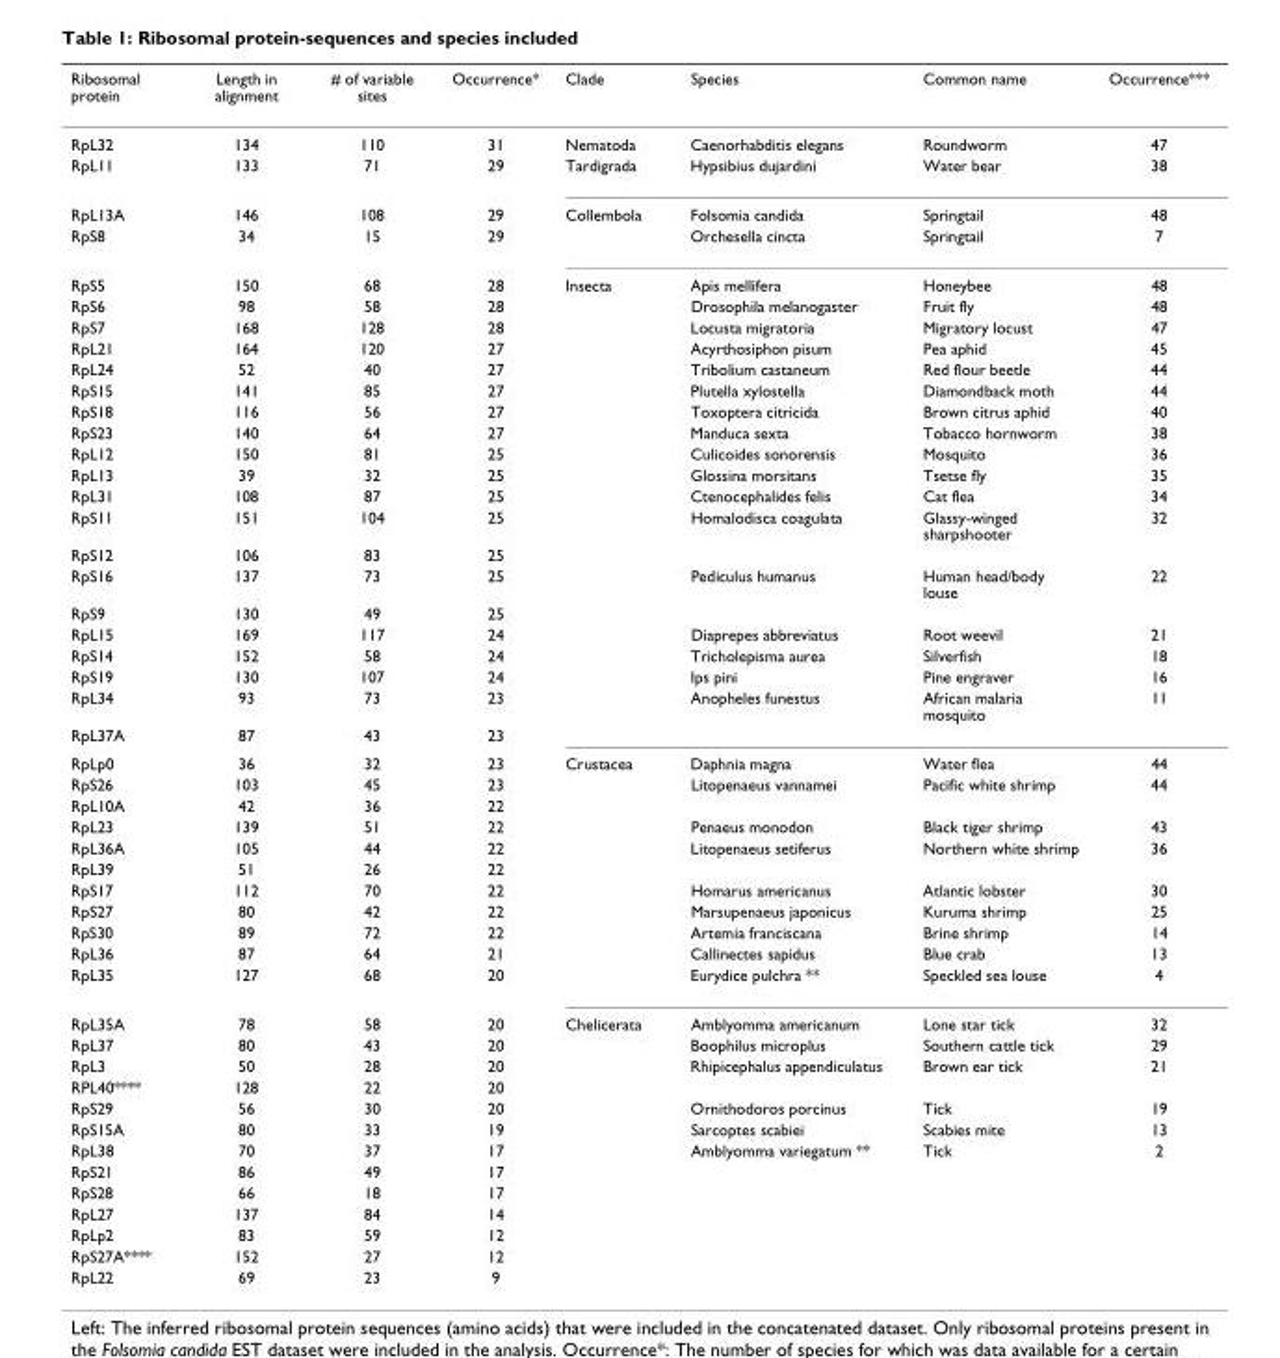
<table><thead><tr><td>Ribosomal protein</td><td>Length in alignment</td><td># of variable sites</td><td>Occurrence*</td><td>Clade</td><td>Species</td><td>Common name</td><td>Occurrence***</td></tr></thead><tbody><tr><td>RpL32</td><td>134</td><td>110</td><td>31</td><td>Nematoda</td><td>Caenorhabditis elegans</td><td>Roundworm</td><td>47</td></tr><tr><td>RpL11</td><td>133</td><td>71</td><td>29</td><td>Tardigrada</td><td>Hypsibius dujardini</td><td>Water bear</td><td>38</td></tr><tr><td>RpL13A</td><td>146</td><td>108</td><td>29</td><td>Collembola</td><td>Folsomia candida</td><td>Springtail</td><td>48</td></tr><tr><td>RpS8</td><td>34</td><td>15</td><td>29</td><td></td><td>Orchesella cincta</td><td>Springtail</td><td>7</td></tr><tr><td>RpS5</td><td>150</td><td>68</td><td>28</td><td>Insecta</td><td>Apis mellifera</td><td>Honeybee</td><td>48</td></tr><tr><td>RpS6</td><td>98</td><td>58</td><td>28</td><td></td><td>Drosophila melanogaster</td><td>Fruit fly</td><td>48</td></tr><tr><td>RpS7</td><td>168</td><td>128</td><td>28</td><td></td><td>Locusta migratoria</td><td>Migratory locust</td><td>47</td></tr><tr><td>RpL21</td><td>164</td><td>120</td><td>27</td><td></td><td>Acyrthosiphon pisum</td><td>Pea aphid</td><td>45</td></tr><tr><td>RpL24</td><td>52</td><td>40</td><td>27</td><td></td><td>Tribolium castaneum</td><td>Red flour beetle</td><td>44</td></tr><tr><td>RpS15</td><td>141</td><td>85</td><td>27</td><td></td><td>Plutella xylostella</td><td>Diamondback moth</td><td>44</td></tr><tr><td>RpS18</td><td>116</td><td>56</td><td>27</td><td></td><td>Toxoptera citricida</td><td>Brown citrus aphid</td><td>40</td></tr><tr><td>RpS23</td><td>140</td><td>64</td><td>27</td><td></td><td>Manduca sexta</td><td>Tobacco hornworm</td><td>38</td></tr><tr><td>RpL12</td><td>150</td><td>81</td><td>25</td><td></td><td>Culicoides sonorensis</td><td>Mosquito</td><td>36</td></tr><tr><td>RpL13</td><td>39</td><td>32</td><td>25</td><td></td><td>Glossina morsitans</td><td>Tsetse fly</td><td>35</td></tr><tr><td>RpL31</td><td>108</td><td>87</td><td>25</td><td></td><td>Ctenocephalides felis</td><td>Cat flea</td><td>34</td></tr><tr><td>RpS11</td><td>151</td><td>104</td><td>25</td><td></td><td>Homalodisca coagulata</td><td>Glassy-winged sharpshooter</td><td>32</td></tr><tr><td>RpS12</td><td>106</td><td>83</td><td>25</td><td></td><td></td><td></td><td></td></tr><tr><td>RpS16</td><td>137</td><td>73</td><td>25</td><td></td><td>Pediculus humanus</td><td>Human head/body louse</td><td>22</td></tr><tr><td>RpS9</td><td>130</td><td>49</td><td>25</td><td></td><td></td><td></td><td></td></tr><tr><td>RpL15</td><td>169</td><td>117</td><td>24</td><td></td><td>Diaprepes abbreviatus</td><td>Root weevil</td><td>21</td></tr><tr><td>RpS14</td><td>152</td><td>58</td><td>24</td><td></td><td>Tricholepisma aurea</td><td>Silverfish</td><td>18</td></tr><tr><td>RpS19</td><td>130</td><td>107</td><td>24</td><td></td><td>Ips pini</td><td>Pine engraver</td><td>16</td></tr><tr><td>RpL34</td><td>93</td><td>73</td><td>23</td><td></td><td>Anopheles funestus</td><td>African malaria mosquito</td><td>11</td></tr><tr><td>RpL37A</td><td>87</td><td>43</td><td>23</td><td colspan="4"></td></tr><tr><td>RpLp0</td><td>36</td><td>32</td><td>23</td><td>Crustacea</td><td>Daphnia magna</td><td>Water flea</td><td>44</td></tr><tr><td>RpS26</td><td>103</td><td>45</td><td>23</td><td></td><td>Litopenaeus vannamei</td><td>Pacific white shrimp</td><td>44</td></tr><tr><td>RpL10A</td><td>42</td><td>36</td><td>22</td><td></td><td></td><td></td><td></td></tr><tr><td>RpL23</td><td>139</td><td>51</td><td>22</td><td></td><td>Penaeus monodon</td><td>Black tiger shrimp</td><td>43</td></tr><tr><td>RpL36A</td><td>105</td><td>44</td><td>22</td><td></td><td>Litopenaeus setiferus</td><td>Northern white shrimp</td><td>36</td></tr><tr><td>RpL39</td><td>51</td><td>26</td><td>22</td><td></td><td></td><td></td><td></td></tr><tr><td>RpS17</td><td>112</td><td>70</td><td>22</td><td></td><td>Homarus americanus</td><td>Atlantic lobster</td><td>30</td></tr><tr><td>RpS27</td><td>80</td><td>42</td><td>22</td><td></td><td>Marsupenaeus japonicus</td><td>Kuruma shrimp</td><td>25</td></tr><tr><td>RpS30</td><td>89</td><td>72</td><td>22</td><td></td><td>Artemia franciscana</td><td>Brine shrimp</td><td>14</td></tr><tr><td>RpL36</td><td>87</td><td>64</td><td>21</td><td></td><td>Callinectes sapidus</td><td>Blue crab</td><td>13</td></tr><tr><td>RpL35</td><td>127</td><td>68</td><td>20</td><td></td><td>Eurydice pulchra **</td><td>Speckled sea louse</td><td>4</td></tr><tr><td>RpL35A</td><td>78</td><td>58</td><td>20</td><td>Chelicerata</td><td>Amblyomma americanum</td><td>Lone star tick</td><td>32</td></tr><tr><td>RpL37</td><td>80</td><td>43</td><td>20</td><td></td><td>Boophilus microplus</td><td>Southern cattle tick</td><td>29</td></tr><tr><td>RpL3</td><td>50</td><td>28</td><td>20</td><td></td><td>Rhipicephalus appendiculatus</td><td>Brown ear tick</td><td>21</td></tr><tr><td>RPL40****</td><td>128</td><td>22</td><td>20</td><td></td><td></td><td></td><td></td></tr><tr><td>RpS29</td><td>56</td><td>30</td><td>20</td><td></td><td>Ornithodoros porcinus</td><td>Tick</td><td>19</td></tr><tr><td>RpS15A</td><td>80</td><td>33</td><td>19</td><td></td><td>Sarcoptes scabiei</td><td>Scabies mite</td><td>13</td></tr><tr><td>RpL38</td><td>70</td><td>37</td><td>17</td><td></td><td>Amblyomma variegatum **</td><td>Tick</td><td>2</td></tr><tr><td>RpS21</td><td>86</td><td>49</td><td>17</td><td></td><td></td><td></td><td></td></tr><tr><td>RpS28</td><td>66</td><td>18</td><td>17</td><td></td><td></td><td></td><td></td></tr><tr><td>RpL27</td><td>137</td><td>84</td><td>14</td><td></td><td></td><td></td><td></td></tr><tr><td>RpLp2</td><td>83</td><td>59</td><td>12</td><td></td><td></td><td></td><td></td></tr><tr><td>RpS27A****</td><td>152</td><td>27</td><td>12</td><td></td><td></td><td></td><td></td></tr><tr><td>RpL22</td><td>69</td><td>23</td><td>9</td><td></td><td></td><td></td><td></td></tr></tbody></table>